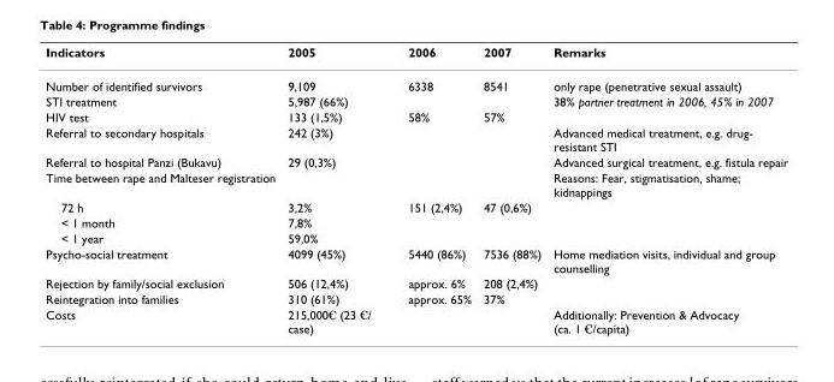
<table><thead><tr><td>Indicators</td><td>2005</td><td>2006</td><td>2007</td><td>Remarks</td></tr></thead><tbody><tr><td>Number of identified survivors</td><td>9,109</td><td>6338</td><td>8541</td><td>only rape (penetrative sexual assault)</td></tr><tr><td>STI treatment</td><td>5,987 (66%)</td><td></td><td></td><td>38% partner treatment in 2006, 45% in 2007</td></tr><tr><td>HIV test</td><td>133 (1,5%)</td><td>58%</td><td>57%</td><td></td></tr><tr><td>Referral to secondary hospitals</td><td>242 (3%)</td><td></td><td></td><td>Advanced medical treatment, e.g. drug- resistant STI</td></tr><tr><td>Referral to hospital Panzi (Bukavu)</td><td>29 (0,3%)</td><td></td><td></td><td>Advanced surgical treatment, e.g. fistula repair</td></tr><tr><td>Time between rape and Malteser registration</td><td></td><td></td><td></td><td>Reasons: Fear, stigmatisation, shame; kidnappings</td></tr><tr><td>72 h</td><td>3,2%</td><td>151 (2,4%)</td><td>47 (0,6%)</td><td></td></tr><tr><td>&lt; 1 month</td><td>7,8%</td><td></td><td></td><td></td></tr><tr><td>&lt; 1 year</td><td>59,0%</td><td></td><td></td><td></td></tr><tr><td>Psycho-social treatment</td><td>4099 (45%)</td><td>5440 (86%)</td><td>7536 (88%)</td><td>Home mediation visits, individual and group counselling</td></tr><tr><td>Rejection by family/social exclusion</td><td>506 (12,4%)</td><td>approx. 6%</td><td>208 (2,4%)</td><td></td></tr><tr><td>Reintegration into families</td><td>310 (61%)</td><td>approx. 65%</td><td>37%</td><td></td></tr><tr><td>Costs</td><td>215,000€ (23 €/ case)</td><td></td><td></td><td>Additionally: Prevention &amp; Advocacy (ca. 1 €/capita)</td></tr></tbody></table>